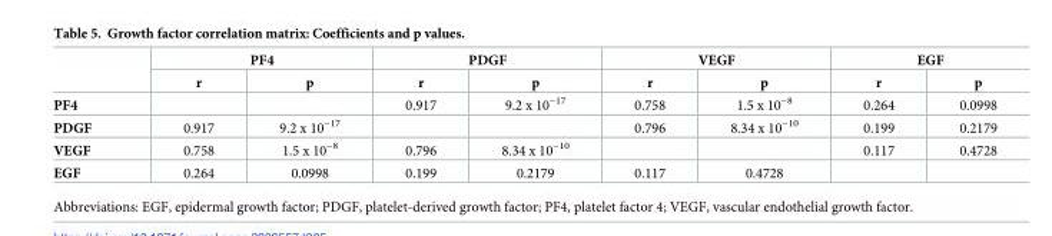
<table><thead><tr><td rowspan="2"></td><td colspan="2">PF4</td><td colspan="2">PDGF</td><td colspan="2">VEGF</td><td colspan="2">EGF</td></tr><tr><td>r</td><td>p</td><td>r</td><td>p</td><td>r</td><td>p</td><td>r</td><td>p</td></tr></thead><tbody><tr><td>PF4</td><td></td><td></td><td>0.917</td><td>9.2 x 10<sup>−17</sup></td><td>0.758</td><td>1.5 x 10<sup>−8</sup></td><td>0.264</td><td>0.0998</td></tr><tr><td>PDGF</td><td>0.917</td><td>9.2 x 10<sup>−17</sup></td><td></td><td></td><td>0.796</td><td>8.34 x 10<sup>−10</sup></td><td>0.199</td><td>0.2179</td></tr><tr><td>VEGF</td><td>0.758</td><td>1.5 x 10<sup>−8</sup></td><td>0.796</td><td>8.34 x 10<sup>−10</sup></td><td></td><td></td><td>0.117</td><td>0.4728</td></tr><tr><td>EGF</td><td>0.264</td><td>0.0998</td><td>0.199</td><td>0.2179</td><td>0.117</td><td>0.4728</td><td></td><td></td></tr></tbody></table>